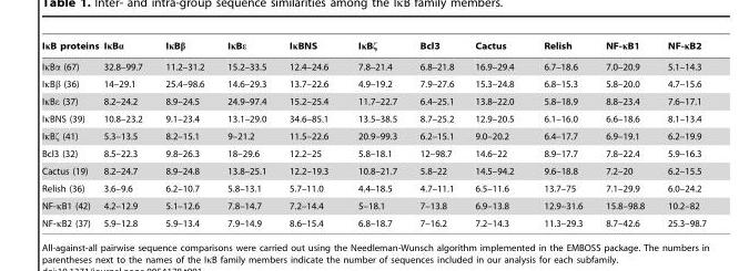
<table><thead><tr><td>IκB proteins</td><td>IκBα</td><td>IκBβ</td><td>IκBε</td><td>IκBNS</td><td>IκBζ</td><td>Bcl3</td><td>Cactus</td><td>Relish</td><td>NF-κB1</td><td>NF-κB2</td></tr></thead><tbody><tr><td>IκBα (67)</td><td>32.8–99.7</td><td>11.2–31.2</td><td>15.2–33.5</td><td>12.4–24.6</td><td>7.8–21.4</td><td>6.8–21.8</td><td>16.9–29.4</td><td>6.7–18.6</td><td>7.0–20.9</td><td>5.1–14.3</td></tr><tr><td>IκBβ (36)</td><td>14–29.1</td><td>25.4–98.6</td><td>14.6–29.3</td><td>13.7–22.6</td><td>4.9–19.2</td><td>7.9–27.6</td><td>15.3–24.8</td><td>6.8–15.3</td><td>5.8–20.0</td><td>4.7–15.6</td></tr><tr><td>IκBε (37)</td><td>8.2–24.2</td><td>8.9–24.5</td><td>24.9–97.4</td><td>15.2–25.4</td><td>11.7–22.7</td><td>6.4–25.1</td><td>13.8–22.0</td><td>5.8–18.9</td><td>8.8–23.4</td><td>7.6–17.1</td></tr><tr><td>IκBNS (39)</td><td>10.8–23.2</td><td>9.1–23.4</td><td>13.1–29.0</td><td>34.6–85.1</td><td>13.5–38.5</td><td>8.7–25.2</td><td>12.9–20.5</td><td>6.1–16.0</td><td>6.6–18.6</td><td>8.1–13.4</td></tr><tr><td>IκBζ (41)</td><td>5.3–13.5</td><td>8.2–15.1</td><td>9–21.2</td><td>11.5–22.6</td><td>20.9–99.3</td><td>6.2–15.1</td><td>9.0–20.2</td><td>6.4–17.7</td><td>6.9–19.1</td><td>6.2–19.9</td></tr><tr><td>Bcl3 (32)</td><td>8.5–22.3</td><td>9.8–26.3</td><td>18–29.6</td><td>12.2–25</td><td>5.8–18.1</td><td>12–98.7</td><td>14.6–22</td><td>8.9–17.7</td><td>7.8–22.4</td><td>5.9–16.3</td></tr><tr><td>Cactus (19)</td><td>8.2–24.7</td><td>8.9–24.8</td><td>13.8–25.1</td><td>12.2–19.3</td><td>10.8–21.7</td><td>5.8–22</td><td>14.5–94.2</td><td>9.6–18.8</td><td>7.2–20</td><td>6.2–15.5</td></tr><tr><td>Relish (36)</td><td>3.6–9.6</td><td>6.2–10.7</td><td>5.8–13.1</td><td>5.7–11.0</td><td>4.4–18.5</td><td>4.7–11.1</td><td>6.5–11.6</td><td>13.7–75</td><td>7.1–29.9</td><td>6.0–24.2</td></tr><tr><td>NF-κB1 (42)</td><td>4.2–12.9</td><td>5.1–12.6</td><td>7.8–14.7</td><td>7.2–14.4</td><td>5–18.1</td><td>7–13.8</td><td>6.9–13.8</td><td>12.9–31.6</td><td>15.8–98.8</td><td>10.2–82</td></tr><tr><td>NF-κB2 (37)</td><td>5.9–12.8</td><td>5.9–13.4</td><td>7.9–14.9</td><td>8.6–15.4</td><td>6.8–18.7</td><td>7–16.2</td><td>7.2–14.3</td><td>11.3–29.3</td><td>8.7–42.6</td><td>25.3–98.7</td></tr></tbody></table>